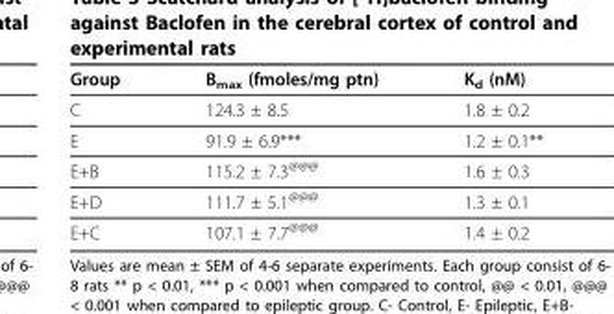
<table><thead><tr><td>Group</td><td>B<sub>max</sub> (fmoles/mg ptn)</td><td>K<sub>d</sub> (nM)</td></tr></thead><tbody><tr><td>C</td><td>124.3 ± 8.5</td><td>1.8 ± 0.2</td></tr><tr><td>E</td><td>91.9 ± 6.9***</td><td>1.2 ± 0.1**</td></tr><tr><td>E+B</td><td>115.2 ± 7.3<sup>@@@</sup></td><td>1.6 ± 0.3</td></tr><tr><td>E+D</td><td>111.7 ± 5.1<sup>@@@</sup></td><td>1.3 ± 0.1</td></tr><tr><td>E+C</td><td>107.1 ± 7.7<sup>@@@</sup></td><td>1.4 ± 0.2</td></tr></tbody></table>